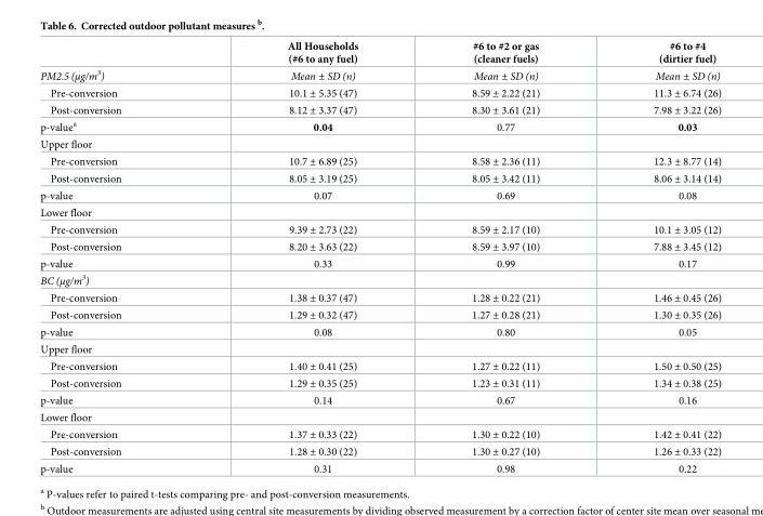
<table><thead><tr><td></td><td>All Households (#6 to any fuel)</td><td>#6 to #2 or gas (cleaner fuels)</td><td>#6 to #4 (dirtier fuel)</td></tr></thead><tbody><tr><td>PM2.5 (μg/m<sup>3</sup>)</td><td>Mean ± SD (n)</td><td>Mean ± SD (n)</td><td>Mean ± SD (n)</td></tr><tr><td>Pre-conversion</td><td>10.1 ± 5.35 (47)</td><td>8.59 ± 2.22 (21)</td><td>11.3 ± 6.74 (26)</td></tr><tr><td>Post-conversion</td><td>8.12 ± 3.37 (47)</td><td>8.30 ± 3.61 (21)</td><td>7.98 ± 3.22 (26)</td></tr><tr><td>p-value<sup>a</sup></td><td>0.04</td><td>0.77</td><td>0.03</td></tr><tr><td colspan="4">Upper floor</td></tr><tr><td>Pre-conversion</td><td>10.7 ± 6.89 (25)</td><td>8.58 ± 2.36 (11)</td><td>12.3 ± 8.77 (14)</td></tr><tr><td>Post-conversion</td><td>8.05 ± 3.19 (25)</td><td>8.05 ± 3.42 (11)</td><td>8.06 ± 3.14 (14)</td></tr><tr><td>p-value</td><td>0.07</td><td>0.69</td><td>0.08</td></tr><tr><td colspan="4">Lower floor</td></tr><tr><td>Pre-conversion</td><td>9.39 ± 2.73 (22)</td><td>8.59 ± 2.17 (10)</td><td>10.1 ± 3.05 (12)</td></tr><tr><td>Post-conversion</td><td>8.20 ± 3.63 (22)</td><td>8.59 ± 3.97 (10)</td><td>7.88 ± 3.45 (12)</td></tr><tr><td>p-value</td><td>0.33</td><td>0.99</td><td>0.17</td></tr><tr><td colspan="4">BC (μg/m<sup>3</sup>)</td></tr><tr><td>Pre-conversion</td><td>1.38 ± 0.37 (47)</td><td>1.28 ± 0.22 (21)</td><td>1.46 ± 0.45 (26)</td></tr><tr><td>Post-conversion</td><td>1.29 ± 0.32 (47)</td><td>1.27 ± 0.28 (21)</td><td>1.30 ± 0.35 (26)</td></tr><tr><td>p-value</td><td>0.08</td><td>0.80</td><td>0.05</td></tr><tr><td colspan="4">Upper floor</td></tr><tr><td>Pre-conversion</td><td>1.40 ± 0.41 (25)</td><td>1.27 ± 0.22 (11)</td><td>1.50 ± 0.50 (25)</td></tr><tr><td>Post-conversion</td><td>1.29 ± 0.35 (25)</td><td>1.23 ± 0.31 (11)</td><td>1.34 ± 0.38 (25)</td></tr><tr><td>p-value</td><td>0.14</td><td>0.67</td><td>0.16</td></tr><tr><td colspan="4">Lower floor</td></tr><tr><td>Pre-conversion</td><td>1.37 ± 0.33 (22)</td><td>1.30 ± 0.22 (10)</td><td>1.42 ± 0.41 (22)</td></tr><tr><td>Post-conversion</td><td>1.28 ± 0.30 (22)</td><td>1.30 ± 0.27 (10)</td><td>1.26 ± 0.33 (22)</td></tr><tr><td>p-value</td><td>0.31</td><td>0.98</td><td>0.22</td></tr></tbody></table>